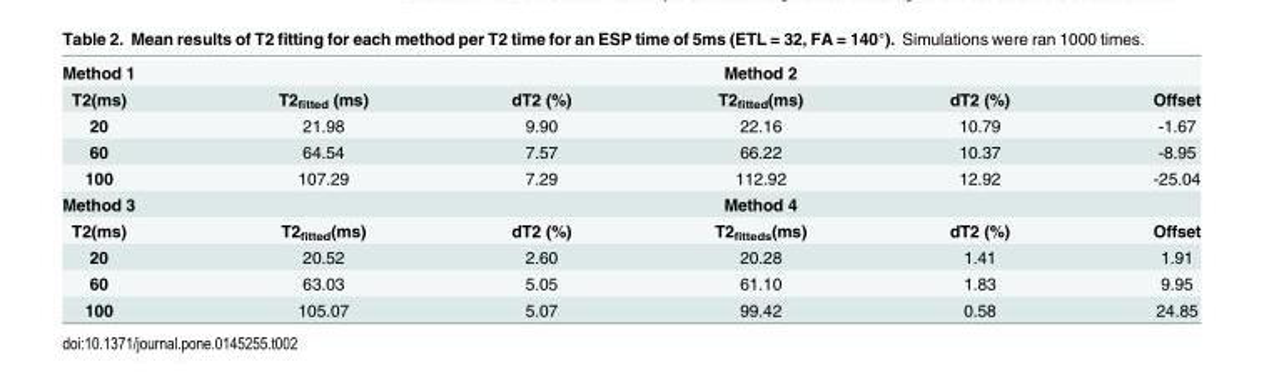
<table><tbody><tr><td>Method 1</td><td></td><td></td><td>Method 2</td><td></td><td></td></tr><tr><td>T2(ms)</td><td>T2<sub>fitted</sub> (ms)</td><td>dT2 (%)</td><td>T2<sub>fitted</sub>(ms)</td><td>dT2 (%)</td><td>Offset</td></tr><tr><td>20</td><td>21.98</td><td>9.90</td><td>22.16</td><td>10.79</td><td>-1.67</td></tr><tr><td>60</td><td>64.54</td><td>7.57</td><td>66.22</td><td>10.37</td><td>-8.95</td></tr><tr><td>100</td><td>107.29</td><td>7.29</td><td>112.92</td><td>12.92</td><td>-25.04</td></tr><tr><td>Method 3</td><td></td><td></td><td>Method 4</td><td></td><td></td></tr><tr><td>T2(ms)</td><td>T2<sub>fitted</sub>(ms)</td><td>dT2 (%)</td><td>T2<sub>fitteds</sub>(ms)</td><td>dT2 (%)</td><td>Offset</td></tr><tr><td>20</td><td>20.52</td><td>2.60</td><td>20.28</td><td>1.41</td><td>1.91</td></tr><tr><td>60</td><td>63.03</td><td>5.05</td><td>61.10</td><td>1.83</td><td>9.95</td></tr><tr><td>100</td><td>105.07</td><td>5.07</td><td>99.42</td><td>0.58</td><td>24.85</td></tr></tbody></table>